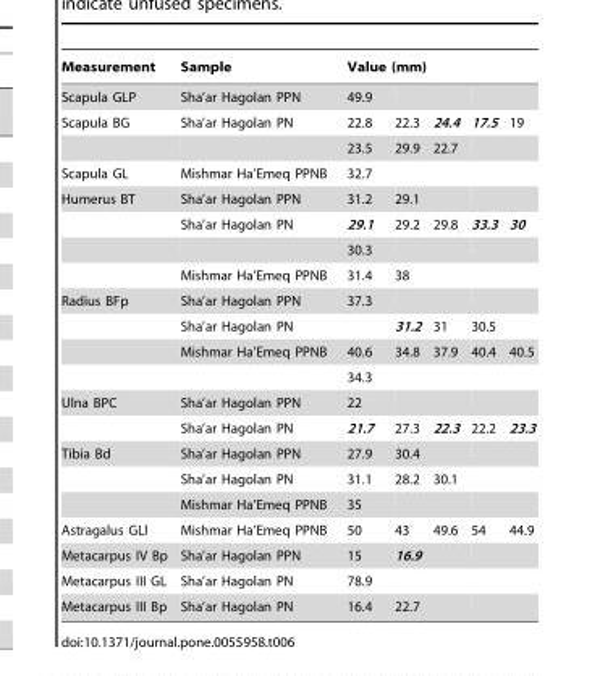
<table><thead><tr><td rowspan="2">Measurement Scapula GLP</td><td rowspan="2">Sample Sha’ar Hagolan PPN</td><td colspan="5">Value (mm)</td></tr><tr><td>49.9</td><td></td><td></td><td></td><td></td></tr></thead><tbody><tr><td rowspan="2">Scapula BG</td><td>Sha’ar Hagolan PN</td><td>22.8</td><td>22.3</td><td>24.4</td><td>17.5</td><td>19</td></tr><tr><td></td><td>23.5</td><td>29.9</td><td>22.7</td><td></td><td></td></tr><tr><td>Scapula GL</td><td>Mishmar Ha’Emeq PPNB</td><td>32.7</td><td></td><td></td><td></td><td></td></tr><tr><td rowspan="4">Humerus BT</td><td>Sha’ar Hagolan PPN</td><td>31.2</td><td>29.1</td><td></td><td></td><td></td></tr><tr><td>Sha’ar Hagolan PN</td><td>29.1</td><td>29.2</td><td>29.8</td><td>33.3</td><td>30</td></tr><tr><td></td><td>30.3</td><td></td><td></td><td></td><td></td></tr><tr><td>Mishmar Ha’Emeq PPNB</td><td>31.4</td><td>38</td><td></td><td></td><td></td></tr><tr><td rowspan="4">Radius BFp</td><td>Sha’ar Hagolan PPN</td><td>37.3</td><td></td><td></td><td></td><td></td></tr><tr><td>Sha’ar Hagolan PN</td><td></td><td>31.2</td><td>31</td><td>30.5</td><td></td></tr><tr><td>Mishmar Ha’Emeq PPNB</td><td>40.6</td><td>34.8</td><td>37.9</td><td>40.4</td><td>40.5</td></tr><tr><td></td><td>34.3</td><td></td><td></td><td></td><td></td></tr><tr><td rowspan="2">Ulna BPC</td><td>Sha’ar Hagolan PPN</td><td>22</td><td></td><td></td><td></td><td></td></tr><tr><td>Sha’ar Hagolan PN</td><td>21.7</td><td>27.3</td><td>22.3</td><td>22.2</td><td>23.3</td></tr><tr><td rowspan="3">Tibia Bd</td><td>Sha’ar Hagolan PPN</td><td>27.9</td><td>30.4</td><td></td><td></td><td></td></tr><tr><td>Sha’ar Hagolan PN</td><td>31.1</td><td>28.2</td><td>30.1</td><td></td><td></td></tr><tr><td>Mishmar Ha’Emeq PPNB</td><td>35</td><td></td><td></td><td></td><td></td></tr><tr><td>Astragalus GLl</td><td>Mishmar Ha’Emeq PPNB</td><td>50</td><td>43</td><td>49.6</td><td>54</td><td>44.9</td></tr><tr><td>Metacarpus IV Bp</td><td>Sha’ar Hagolan PPN</td><td>15</td><td>16.9</td><td></td><td></td><td></td></tr><tr><td>Metacarpus III GL</td><td>Sha’ar Hagolan PN</td><td>78.9</td><td></td><td></td><td></td><td></td></tr><tr><td>Metacarpus III Bp</td><td>Sha’ar Hagolan PN</td><td>16.4</td><td>22.7</td><td></td><td></td><td></td></tr></tbody></table>